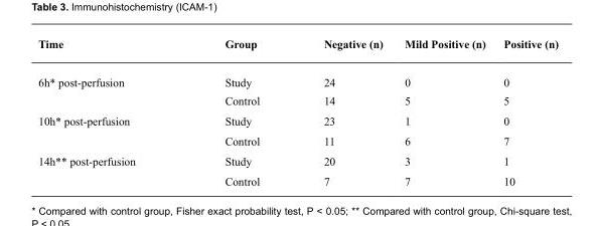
<table><thead><tr><td>Time</td><td>Group</td><td>Negative (n)</td><td>Mild Positive (n)</td><td>Positive (n)</td></tr></thead><tbody><tr><td rowspan="2">6h* post-perfusion</td><td>Study</td><td>24</td><td>0</td><td>0</td></tr><tr><td>Control</td><td>14</td><td>5</td><td>5</td></tr><tr><td rowspan="2">10h* post-perfusion</td><td>Study</td><td>23</td><td>1</td><td>0</td></tr><tr><td>Control</td><td>11</td><td>6</td><td>7</td></tr><tr><td rowspan="2">14h** post-perfusion</td><td>Study</td><td>20</td><td>3</td><td>1</td></tr><tr><td>Control</td><td>7</td><td>7</td><td>10</td></tr></tbody></table>